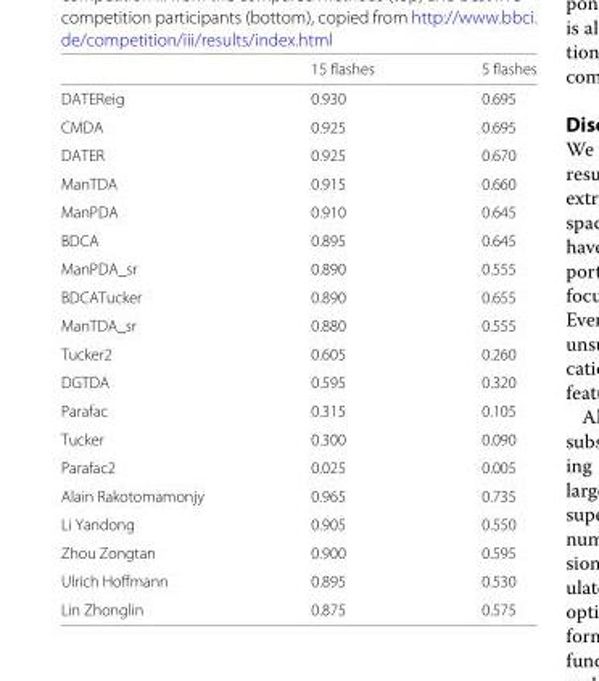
<table><thead><tr><td></td><td>15 flashes</td><td>5 flashes</td></tr></thead><tbody><tr><td>DATEReig</td><td>0.930</td><td>0.695</td></tr><tr><td>CMDA</td><td>0.925</td><td>0.695</td></tr><tr><td>DATER</td><td>0.925</td><td>0.670</td></tr><tr><td>ManTDA</td><td>0.915</td><td>0.660</td></tr><tr><td>ManPDA</td><td>0.910</td><td>0.645</td></tr><tr><td>BDCA</td><td>0.895</td><td>0.645</td></tr><tr><td>ManPDA_sr</td><td>0.890</td><td>0.555</td></tr><tr><td>BDCATucker</td><td>0.890</td><td>0.655</td></tr><tr><td>ManTDA_sr</td><td>0.880</td><td>0.555</td></tr><tr><td>Tucker2</td><td>0.605</td><td>0.260</td></tr><tr><td>DGTDA</td><td>0.595</td><td>0.320</td></tr><tr><td>Parafac</td><td>0.315</td><td>0.105</td></tr><tr><td>Tucker</td><td>0.300</td><td>0.090</td></tr><tr><td>Parafac2</td><td>0.025</td><td>0.005</td></tr><tr><td>Alain Rakotomamonjy</td><td>0.965</td><td>0.735</td></tr><tr><td>Li Yandong</td><td>0.905</td><td>0.550</td></tr><tr><td>Zhou Zongtan</td><td>0.900</td><td>0.595</td></tr><tr><td>Ulrich Hoffmann</td><td>0.895</td><td>0.530</td></tr><tr><td>Lin Zhonglin</td><td>0.875</td><td>0.575</td></tr></tbody></table>